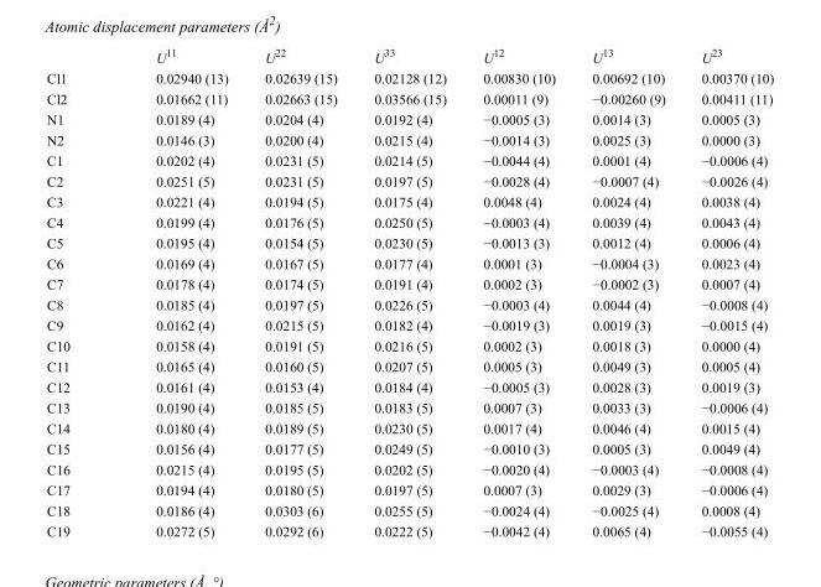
<table><thead><tr><td></td><td>U<sup>11</sup></td><td>U<sup>22</sup></td><td>U<sup>33</sup></td><td>U<sup>12</sup></td><td>U<sup>13</sup></td><td>U<sup>23</sup></td></tr></thead><tbody><tr><td>Cl1</td><td>0.02940 (13)</td><td>0.02639 (15)</td><td>0.02128 (12)</td><td>0.00830 (10)</td><td>0.00692 (10)</td><td>0.00370 (10)</td></tr><tr><td>Cl2</td><td>0.01662 (11)</td><td>0.02663 (15)</td><td>0.03566 (15)</td><td>0.00011 (9)</td><td>−0.00260 (9)</td><td>0.00411 (11)</td></tr><tr><td>N1</td><td>0.0189 (4)</td><td>0.0204 (4)</td><td>0.0192 (4)</td><td>−0.0005 (3)</td><td>0.0014 (3)</td><td>0.0005 (3)</td></tr><tr><td>N2</td><td>0.0146 (3)</td><td>0.0200 (4)</td><td>0.0215 (4)</td><td>−0.0014 (3)</td><td>0.0025 (3)</td><td>0.0000 (3)</td></tr><tr><td>C1</td><td>0.0202 (4)</td><td>0.0231 (5)</td><td>0.0214 (5)</td><td>−0.0044 (4)</td><td>0.0001 (4)</td><td>−0.0006 (4)</td></tr><tr><td>C2</td><td>0.0251 (5)</td><td>0.0231 (5)</td><td>0.0197 (5)</td><td>−0.0028 (4)</td><td>−0.0007 (4)</td><td>−0.0026 (4)</td></tr><tr><td>C3</td><td>0.0221 (4)</td><td>0.0194 (5)</td><td>0.0175 (4)</td><td>0.0048 (4)</td><td>0.0024 (4)</td><td>0.0038 (4)</td></tr><tr><td>C4</td><td>0.0199 (4)</td><td>0.0176 (5)</td><td>0.0250 (5)</td><td>−0.0003 (4)</td><td>0.0039 (4)</td><td>0.0043 (4)</td></tr><tr><td>C5</td><td>0.0195 (4)</td><td>0.0154 (5)</td><td>0.0230 (5)</td><td>−0.0013 (3)</td><td>0.0012 (4)</td><td>0.0006 (4)</td></tr><tr><td>C6</td><td>0.0169 (4)</td><td>0.0167 (5)</td><td>0.0177 (4)</td><td>0.0001 (3)</td><td>−0.0004 (3)</td><td>0.0023 (4)</td></tr><tr><td>C7</td><td>0.0178 (4)</td><td>0.0174 (5)</td><td>0.0191 (4)</td><td>0.0002 (3)</td><td>−0.0002 (3)</td><td>0.0007 (4)</td></tr><tr><td>C8</td><td>0.0185 (4)</td><td>0.0197 (5)</td><td>0.0226 (5)</td><td>−0.0003 (4)</td><td>0.0044 (4)</td><td>−0.0008 (4)</td></tr><tr><td>C9</td><td>0.0162 (4)</td><td>0.0215 (5)</td><td>0.0182 (4)</td><td>−0.0019 (3)</td><td>0.0019 (3)</td><td>−0.0015 (4)</td></tr><tr><td>C10</td><td>0.0158 (4)</td><td>0.0191 (5)</td><td>0.0216 (5)</td><td>0.0002 (3)</td><td>0.0018 (3)</td><td>0.0000 (4)</td></tr><tr><td>C11</td><td>0.0165 (4)</td><td>0.0160 (5)</td><td>0.0207 (5)</td><td>0.0005 (3)</td><td>0.0049 (3)</td><td>0.0005 (4)</td></tr><tr><td>C12</td><td>0.0161 (4)</td><td>0.0153 (4)</td><td>0.0184 (4)</td><td>−0.0005 (3)</td><td>0.0028 (3)</td><td>0.0019 (3)</td></tr><tr><td>C13</td><td>0.0190 (4)</td><td>0.0185 (5)</td><td>0.0183 (5)</td><td>0.0007 (3)</td><td>0.0033 (3)</td><td>−0.0006 (4)</td></tr><tr><td>C14</td><td>0.0180 (4)</td><td>0.0189 (5)</td><td>0.0230 (5)</td><td>0.0017 (4)</td><td>0.0046 (4)</td><td>0.0015 (4)</td></tr><tr><td>C15</td><td>0.0156 (4)</td><td>0.0177 (5)</td><td>0.0249 (5)</td><td>−0.0010 (3)</td><td>0.0005 (3)</td><td>0.0049 (4)</td></tr><tr><td>C16</td><td>0.0215 (4)</td><td>0.0195 (5)</td><td>0.0202 (5)</td><td>−0.0020 (4)</td><td>−0.0003 (4)</td><td>−0.0008 (4)</td></tr><tr><td>C17</td><td>0.0194 (4)</td><td>0.0180 (5)</td><td>0.0197 (5)</td><td>0.0007 (3)</td><td>0.0029 (3)</td><td>−0.0006 (4)</td></tr><tr><td>C18</td><td>0.0186 (4)</td><td>0.0303 (6)</td><td>0.0255 (5)</td><td>−0.0024 (4)</td><td>−0.0025 (4)</td><td>0.0008 (4)</td></tr><tr><td>C19</td><td>0.0272 (5)</td><td>0.0292 (6)</td><td>0.0222 (5)</td><td>−0.0042 (4)</td><td>0.0065 (4)</td><td>−0.0055 (4)</td></tr></tbody></table>